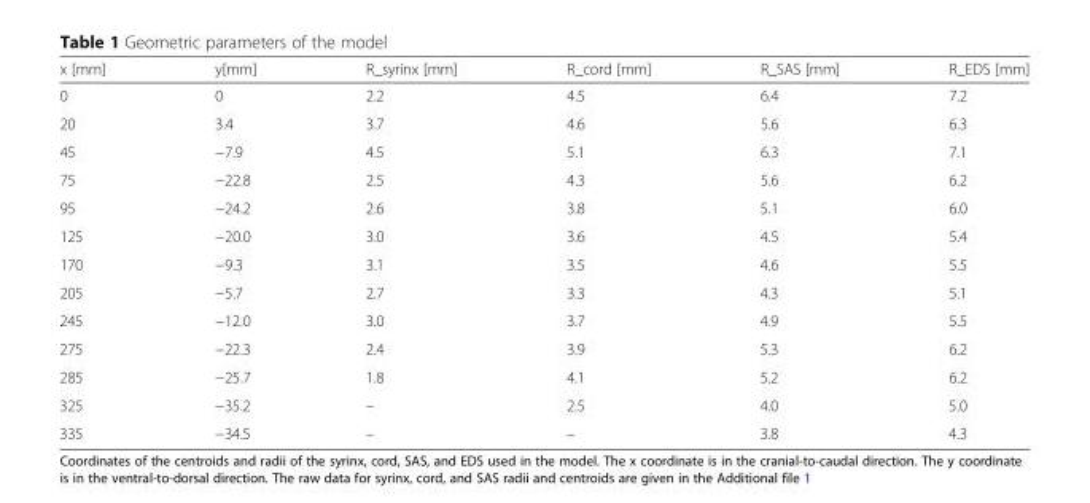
<table><thead><tr><td>x [mm]</td><td>y[mm]</td><td>R_syrinx [mm]</td><td>R_cord [mm]</td><td>R_SAS [mm]</td><td>R_EDS [mm]</td></tr></thead><tbody><tr><td>0</td><td>0</td><td>2.2</td><td>4.5</td><td>6.4</td><td>7.2</td></tr><tr><td>20</td><td>3.4</td><td>3.7</td><td>4.6</td><td>5.6</td><td>6.3</td></tr><tr><td>45</td><td>−7.9</td><td>4.5</td><td>5.1</td><td>6.3</td><td>7.1</td></tr><tr><td>75</td><td>−22.8</td><td>2.5</td><td>4.3</td><td>5.6</td><td>6.2</td></tr><tr><td>95</td><td>−24.2</td><td>2.6</td><td>3.8</td><td>5.1</td><td>6.0</td></tr><tr><td>125</td><td>−20.0</td><td>3.0</td><td>3.6</td><td>4.5</td><td>5.4</td></tr><tr><td>170</td><td>−9.3</td><td>3.1</td><td>3.5</td><td>4.6</td><td>5.5</td></tr><tr><td>205</td><td>−5.7</td><td>2.7</td><td>3.3</td><td>4.3</td><td>5.1</td></tr><tr><td>245</td><td>−12.0</td><td>3.0</td><td>3.7</td><td>4.9</td><td>5.5</td></tr><tr><td>275</td><td>−22.3</td><td>2.4</td><td>3.9</td><td>5.3</td><td>6.2</td></tr><tr><td>285</td><td>−25.7</td><td>1.8</td><td>4.1</td><td>5.2</td><td>6.2</td></tr><tr><td>325</td><td>−35.2</td><td>–</td><td>2.5</td><td>4.0</td><td>5.0</td></tr><tr><td>335</td><td>−34.5</td><td>–</td><td>–</td><td>3.8</td><td>4.3</td></tr></tbody></table>